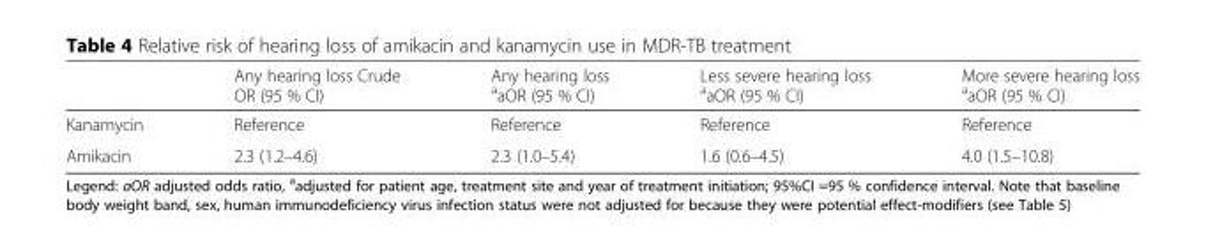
<table><thead><tr><td></td><td>Any hearing loss Crude OR (95 % CI)</td><td>Any hearing loss <sup>a</sup>aOR (95 % CI)</td><td>Less severe hearing loss <sup>a</sup>aOR (95 % CI)</td><td>More severe hearing loss <sup>a</sup>aOR (95 % CI)</td></tr></thead><tbody><tr><td>Kanamycin</td><td>Reference</td><td>Reference</td><td>Reference</td><td>Reference</td></tr><tr><td>Amikacin</td><td>2.3 (1.2–4.6)</td><td>2.3 (1.0–5.4)</td><td>1.6 (0.6–4.5)</td><td>4.0 (1.5–10.8)</td></tr></tbody></table>